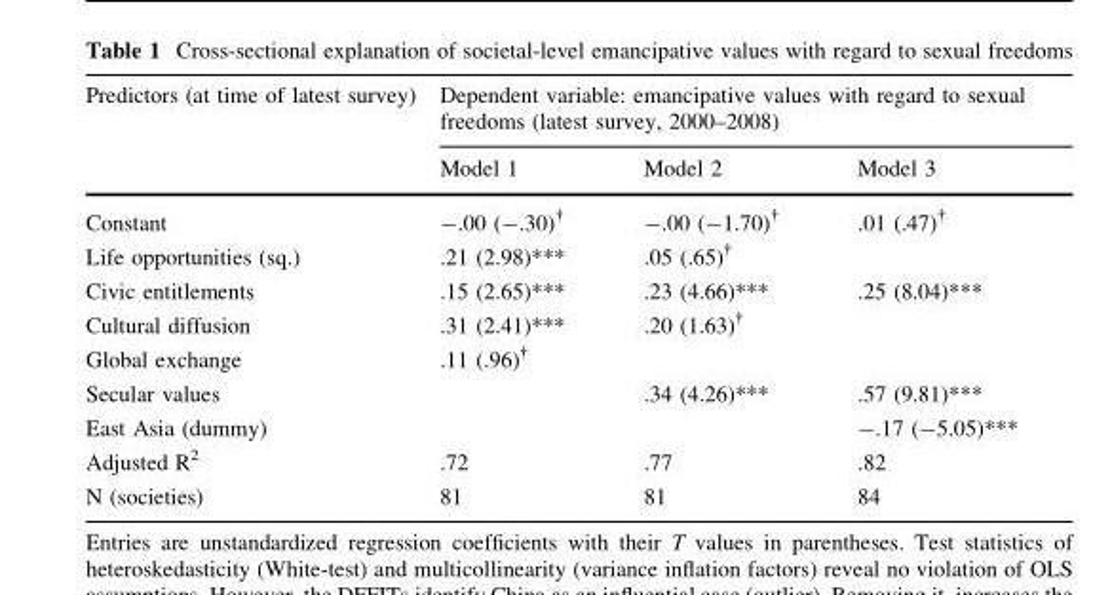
<table><thead><tr><td rowspan="2">Predictors (at time of latest survey)</td><td colspan="3">Dependent variable: emancipative values with regard to sexual freedoms (latest survey, 2000–2008)</td></tr><tr><td>Model 1</td><td>Model 2</td><td>Model 3</td></tr></thead><tbody><tr><td>Constant</td><td>-.00 (-.30)<sup>†</sup></td><td>-.00 (-1.70)<sup>†</sup></td><td>.01 (.47)<sup>†</sup></td></tr><tr><td>Life opportunities (sq.)</td><td>.21 (2.98)***</td><td>.05 (.65)<sup>†</sup></td><td></td></tr><tr><td>Civic entitlements</td><td>.15 (2.65)***</td><td>.23 (4.66)***</td><td>.25 (8.04)***</td></tr><tr><td>Cultural diffusion</td><td>.31 (2.41)***</td><td>.20 (1.63)<sup>†</sup></td><td></td></tr><tr><td>Global exchange</td><td>.11 (.96)<sup>†</sup></td><td></td><td></td></tr><tr><td>Secular values</td><td></td><td>.34 (4.26)***</td><td>.57 (9.81)***</td></tr><tr><td>East Asia (dummy)</td><td></td><td></td><td>-.17 (-5.05)***</td></tr><tr><td>Adjusted R<sup>2</sup></td><td>.72</td><td>.77</td><td>.82</td></tr><tr><td>N (societies)</td><td>81</td><td>81</td><td>84</td></tr></tbody></table>